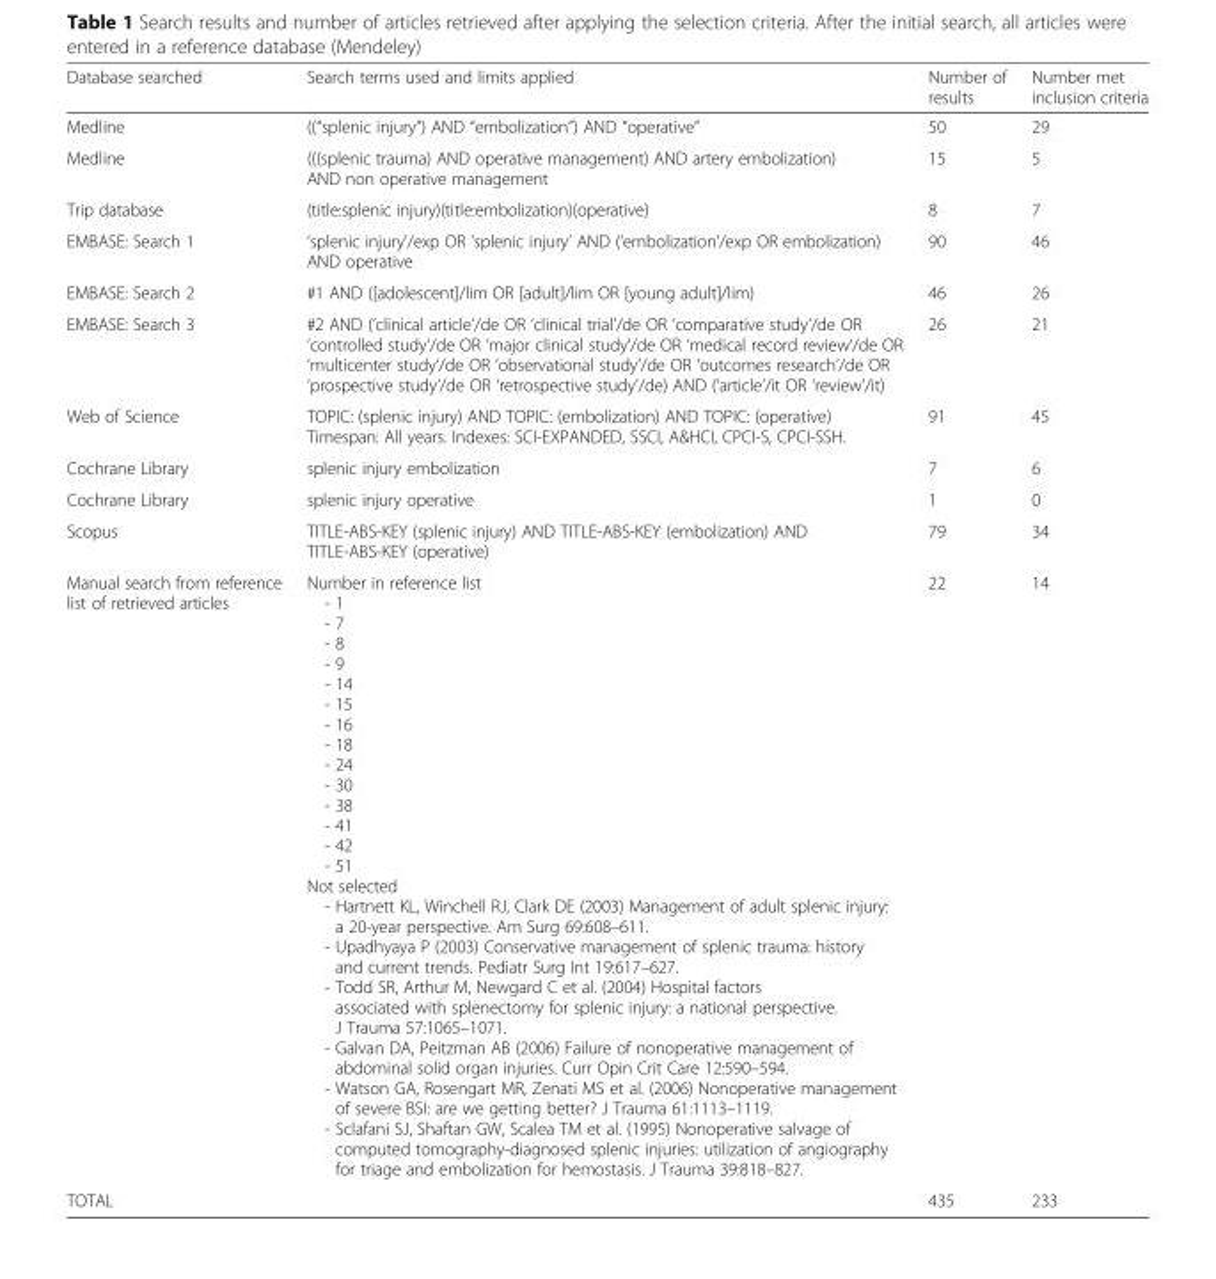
<table><thead><tr><td>Database searched</td><td>Search terms used and limits applied</td><td>Number of results</td><td>Number met inclusion criteria</td></tr></thead><tbody><tr><td>Medline</td><td>((“splenic injury”) AND “embolization”) AND “operative”</td><td>50</td><td>29</td></tr><tr><td>Medline</td><td>(((splenic trauma) AND operative management) AND artery embolization) AND non operative management</td><td>15</td><td>5</td></tr><tr><td>Trip database</td><td>(title:splenic injury)(title:embolization)(operative)</td><td>8</td><td>7</td></tr><tr><td>EMBASE: Search 1</td><td>‘splenic injury’/exp OR ‘splenic injury’ AND (‘embolization’/exp OR embolization) AND operative</td><td>90</td><td>46</td></tr><tr><td>EMBASE: Search 2</td><td>#1 AND ([adolescent]/lim OR [adult]/lim OR [young adult]/lim)</td><td>46</td><td>26</td></tr><tr><td>EMBASE: Search 3</td><td>#2 AND (‘clinical article’/de OR ‘clinical trial’/de OR ‘comparative study’/de OR ‘controlled study‘/de OR ‘major clinical study‘/de OR ‘medical record review‘/de OR ‘multicenter study‘/de OR ‘observational study’/de OR ‘outcomes research’/de OR ‘prospective study’/de OR ‘retrospective study’/de) AND (‘article’/it OR ‘review’/it)</td><td>26</td><td>21</td></tr><tr><td>Web of Science</td><td>TOPIC: (splenic injury) AND TOPIC: (embolization) AND TOPIC: (operative) Timespan: All years. Indexes: SCI-EXPANDED, SSCI, A&amp;HCI, CPCI-S, CPCI-SSH.</td><td>91</td><td>45</td></tr><tr><td>Cochrane Library</td><td>splenic injury embolization</td><td>7</td><td>6</td></tr><tr><td>Cochrane Library</td><td>splenic injury operative</td><td>1</td><td>0</td></tr><tr><td>Scopus</td><td>TITLE-ABS-KEY (splenic injury) AND TITLE-ABS-KEY (embolization) AND TITLE-ABS-KEY (operative)</td><td>79</td><td>34</td></tr><tr><td>Manual search from reference list of retrieved articles</td><td>Number in reference list - 1 - 7 - 8 - 9 - 14 - 15 - 16 - 18 - 24 - 30 - 38 - 41 - 42 - 51 Not selected - Hartnett KL, Winchell RJ, Clark DE (2003) Management of adult splenic injury: a 20-year perspective. Am Surg 69:608–611. - Upadhyaya P (2003) Conservative management of splenic trauma: history and current trends. Pediatr Surg Int 19:617–627. - Todd SR, Arthur M, Newgard C et al. (2004) Hospital factors associated with splenectomy for splenic injury: a national perspective. J Trauma 57:1065–1071. - Galvan DA, Peitzman AB (2006) Failure of nonoperative management of abdominal solid organ injuries. Curr Opin Crit Care 12:590–594. - Watson GA, Rosengart MR, Zenati MS et al. (2006) Nonoperative management of severe BSI: are we getting better? J Trauma 61:1113–1119. - Sclafani SJ, Shaftan GW, Scalea TM et al. (1995) Nonoperative salvage of computed tomography-diagnosed splenic injuries: utilization of angiography for triage and embolization for hemostasis. J Trauma 39:818–827.</td><td>22</td><td>14</td></tr><tr><td>TOTAL</td><td></td><td>435</td><td>233</td></tr></tbody></table>